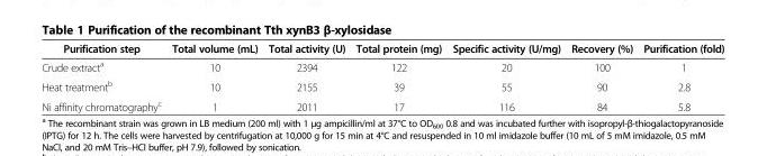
<table><thead><tr><td>Purification step</td><td>Total volume (mL)</td><td>Total activity (U)</td><td>Total protein (mg)</td><td>Specific activity (U/mg)</td><td>Recovery (%)</td><td>Purification (fold)</td></tr></thead><tbody><tr><td>Crude extract<sup>a</sup></td><td>10</td><td>2394</td><td>122</td><td>20</td><td>100</td><td>1</td></tr><tr><td>Heat treatment<sup>b</sup></td><td>10</td><td>2155</td><td>39</td><td>55</td><td>90</td><td>2.8</td></tr><tr><td>Ni affinity chromatography<sup>c</sup></td><td>1</td><td>2011</td><td>17</td><td>116</td><td>84</td><td>5.8</td></tr></tbody></table>